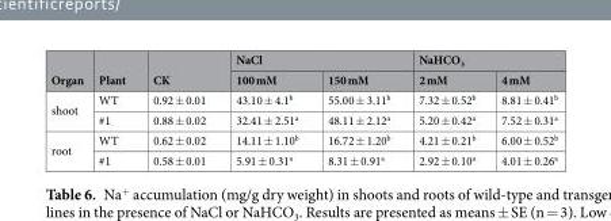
<table><thead><tr><td rowspan="2">Organ</td><td rowspan="2">Plant</td><td rowspan="2">CK</td><td colspan="2">NaCl</td><td colspan="2">NaHCO<sub>3</sub></td></tr><tr><td>100 mM</td><td>150 mM</td><td>2 mM</td><td>4 mM</td></tr></thead><tbody><tr><td rowspan="2">shoot</td><td>WT</td><td>0.92 ± 0.01</td><td>43.10 ± 4.1<sup>b</sup></td><td>55.00 ± 3.11<sup>b</sup></td><td>7.32 ± 0.52<sup>b</sup></td><td>8.81 ± 0.41<sup>b</sup></td></tr><tr><td>#1</td><td>0.88 ± 0.02</td><td>32.41 ± 2.51<sup>a</sup></td><td>48.11 ± 2.12<sup>a</sup></td><td>5.20 ± 0.42<sup>a</sup></td><td>7.52 ± 0.31<sup>a</sup></td></tr><tr><td rowspan="2">root</td><td>WT</td><td>0.62 ± 0.02</td><td>14.11 ± 1.10<sup>b</sup></td><td>16.72 ± 1.20<sup>b</sup></td><td>4.21 ± 0.21<sup>b</sup></td><td>6.00 ± 0.52<sup>b</sup></td></tr><tr><td>#1</td><td>0.58 ± 0.01</td><td>5.91 ± 0.31<sup>a</sup></td><td>8.31 ± 0.91<sup>a</sup></td><td>2.92 ± 0.10<sup>a</sup></td><td>4.01 ± 0.26<sup>a</sup></td></tr></tbody></table>